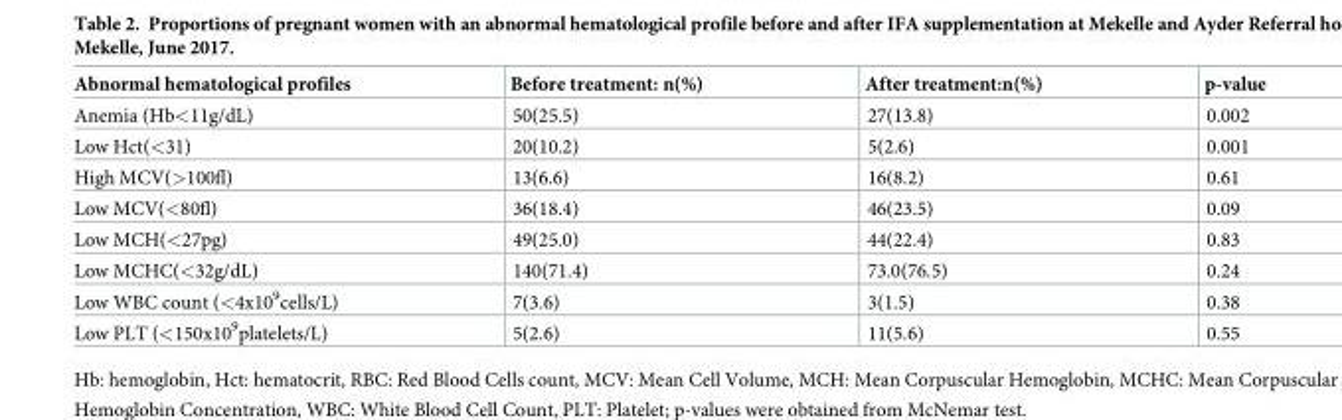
<table><thead><tr><td>Abnormal hematological profiles</td><td>Before treatment: n(%)</td><td>After treatment:n(%)</td><td>p-value</td></tr></thead><tbody><tr><td>Anemia (Hb&lt;11g/dL)</td><td>50(25.5)</td><td>27(13.8)</td><td>0.002</td></tr><tr><td>Low Hct(&lt;31)</td><td>20(10.2)</td><td>5(2.6)</td><td>0.001</td></tr><tr><td>High MCV(&gt;100fl)</td><td>13(6.6)</td><td>16(8.2)</td><td>0.61</td></tr><tr><td>Low MCV(&lt;80fl)</td><td>36(18.4)</td><td>46(23.5)</td><td>0.09</td></tr><tr><td>Low MCH(&lt;27pg)</td><td>49(25.0)</td><td>44(22.4)</td><td>0.83</td></tr><tr><td>Low MCHC(&lt;32g/dL)</td><td>140(71.4)</td><td>73.0(76.5)</td><td>0.24</td></tr><tr><td>Low WBC count (&lt;4x10<sup>9</sup>cells/L)</td><td>7(3.6)</td><td>3(1.5)</td><td>0.38</td></tr><tr><td>Low PLT (&lt;150x10<sup>9</sup>platelets/L)</td><td>5(2.6)</td><td>11(5.6)</td><td>0.55</td></tr></tbody></table>